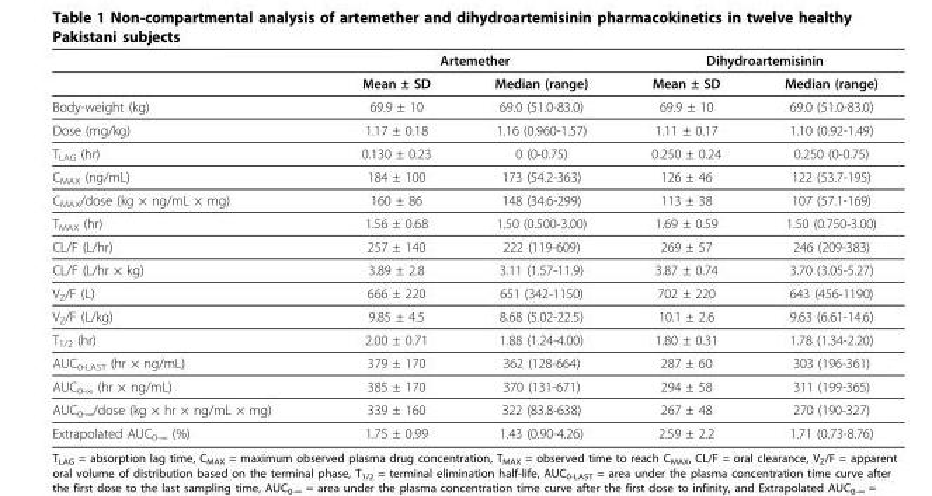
<table><thead><tr><td rowspan="2"></td><td colspan="2">Artemether</td><td colspan="2">Dihydroartemisinin</td></tr><tr><td>Mean ± SD</td><td>Median (range)</td><td>Mean ± SD</td><td>Median (range)</td></tr></thead><tbody><tr><td>Body-weight (kg)</td><td>69.9 ± 10</td><td>69.0 (51.0-83.0)</td><td>69.9 ± 10</td><td>69.0 (51.0-83.0)</td></tr><tr><td>Dose (mg/kg)</td><td>1.17 ± 0.18</td><td>1.16 (0.960-1.57)</td><td>1.11 ± 0.17</td><td>1.10 (0.92-1.49)</td></tr><tr><td>T<sub>LAG</sub> (hr)</td><td>0.130 ± 0.23</td><td>0 (0-0.75)</td><td>0.250 ± 0.24</td><td>0.250 (0-0.75)</td></tr><tr><td>C<sub>MAX</sub> (ng/mL)</td><td>184 ± 100</td><td>173 (54.2-363)</td><td>126 ± 46</td><td>122 (53.7-195)</td></tr><tr><td>C<sub>MAX</sub>/dose (kg × ng/mL × mg)</td><td>160 ± 86</td><td>148 (34.6-299)</td><td>113 ± 38</td><td>107 (57.1-169)</td></tr><tr><td>T<sub>MAX</sub> (hr)</td><td>1.56 ± 0.68</td><td>1.50 (0.500-3.00)</td><td>1.69 ± 0.59</td><td>1.50 (0.750-3.00)</td></tr><tr><td>CL/F (L/hr)</td><td>257 ± 140</td><td>222 (119-609)</td><td>269 ± 57</td><td>246 (209-383)</td></tr><tr><td>CL/F (L/hr × kg)</td><td>3.89 ± 2.8</td><td>3.11 (1.57-11.9)</td><td>3.87 ± 0.74</td><td>3.70 (3.05-5.27)</td></tr><tr><td>V<sub>Z</sub>/F (L)</td><td>666 ± 220</td><td>651 (342-1150)</td><td>702 ± 220</td><td>643 (456-1190)</td></tr><tr><td>V<sub>Z</sub>/F (L/kg)</td><td>9.85 ± 4.5</td><td>8.68 (5.02-22.5)</td><td>10.1 ± 2.6</td><td>9.63 (6.61-14.6)</td></tr><tr><td>T<sub>1/2</sub> (hr)</td><td>2.00 ± 0.71</td><td>1.88 (1.24-4.00)</td><td>1.80 ± 0.31</td><td>1.78 (1.34-2.20)</td></tr><tr><td>AUC<sub>0-LAST</sub> (hr × ng/mL)</td><td>379 ± 170</td><td>362 (128-664)</td><td>287 ± 60</td><td>303 (196-361)</td></tr><tr><td>AUC<sub>0-∞</sub> (hr × ng/mL)</td><td>385 ± 170</td><td>370 (131-671)</td><td>294 ± 58</td><td>311 (199-365)</td></tr><tr><td>AUC<sub>0-∞</sub>/dose (kg × hr × ng/mL × mg)</td><td>339 ± 160</td><td>322 (83.8-638)</td><td>267 ± 48</td><td>270 (190-327)</td></tr><tr><td>Extrapolated AUC<sub>0-∞</sub> (%)</td><td>1.75 ± 0.99</td><td>1.43 (0.90-4.26)</td><td>2.59 ± 2.2</td><td>1.71 (0.73-8.76)</td></tr></tbody></table>